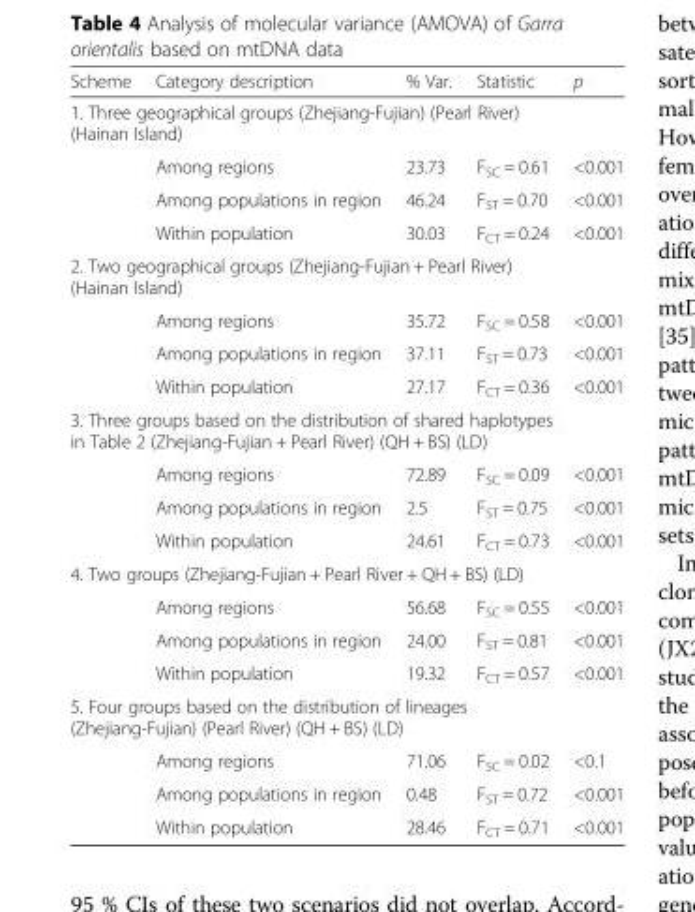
<table><thead><tr><td>Scheme</td><td>Category description</td><td>% Var.</td><td>Statistic</td><td>p</td></tr></thead><tbody><tr><td colspan="5">1. Three geographical groups (Zhejiang-Fujian) (Pearl River) (Hainan Island)</td></tr><tr><td></td><td>Among regions</td><td>23.73</td><td>F<sub>SC</sub> = 0.61</td><td>&lt;0.001</td></tr><tr><td></td><td>Among populations in region</td><td>46.24</td><td>F<sub>ST</sub> = 0.70</td><td>&lt;0.001</td></tr><tr><td></td><td>Within population</td><td>30.03</td><td>F<sub>CT</sub> = 0.24</td><td>&lt;0.001</td></tr><tr><td colspan="5">2. Two geographical groups (Zhejiang-Fujian + Pearl River) (Hainan Island)</td></tr><tr><td></td><td>Among regions</td><td>35.72</td><td>F<sub>SC</sub> = 0.58</td><td>&lt;0.001</td></tr><tr><td></td><td>Among populations in region</td><td>37.11</td><td>F<sub>ST</sub> = 0.73</td><td>&lt;0.001</td></tr><tr><td></td><td>Within population</td><td>27.17</td><td>F<sub>CT</sub> = 0.36</td><td>&lt;0.001</td></tr><tr><td colspan="5">3. Three groups based on the distribution of shared haplotypes in Table 2 (Zhejiang-Fujian + Pearl River) (QH + BS) (LD)</td></tr><tr><td></td><td>Among regions</td><td>72.89</td><td>F<sub>SC</sub> = 0.09</td><td>&lt;0.001</td></tr><tr><td></td><td>Among populations in region</td><td>2.5</td><td>F<sub>ST</sub> = 0.75</td><td>&lt;0.001</td></tr><tr><td></td><td>Within population</td><td>24.61</td><td>F<sub>CT</sub> = 0.73</td><td>&lt;0.001</td></tr><tr><td colspan="5">4. Two groups (Zhejiang-Fujian + Pearl River + QH + BS) (LD)</td></tr><tr><td></td><td>Among regions</td><td>56.68</td><td>F<sub>SC</sub> = 0.55</td><td>&lt;0.001</td></tr><tr><td></td><td>Among populations in region</td><td>24.00</td><td>F<sub>ST</sub> = 0.81</td><td>&lt;0.001</td></tr><tr><td></td><td>Within population</td><td>19.32</td><td>F<sub>CT</sub> = 0.57</td><td>&lt;0.001</td></tr><tr><td colspan="5">5. Four groups based on the distribution of lineages (Zhejiang-Fujian) (Pearl River) (QH + BS) (LD)</td></tr><tr><td></td><td>Among regions</td><td>71.06</td><td>F<sub>SC</sub> = 0.02</td><td>&lt;0.1</td></tr><tr><td></td><td>Among populations in region</td><td>0.48</td><td>F<sub>ST</sub> = 0.72</td><td>&lt;0.001</td></tr><tr><td></td><td>Within population</td><td>28.46</td><td>F<sub>CT</sub> = 0.71</td><td>&lt;0.001</td></tr></tbody></table>